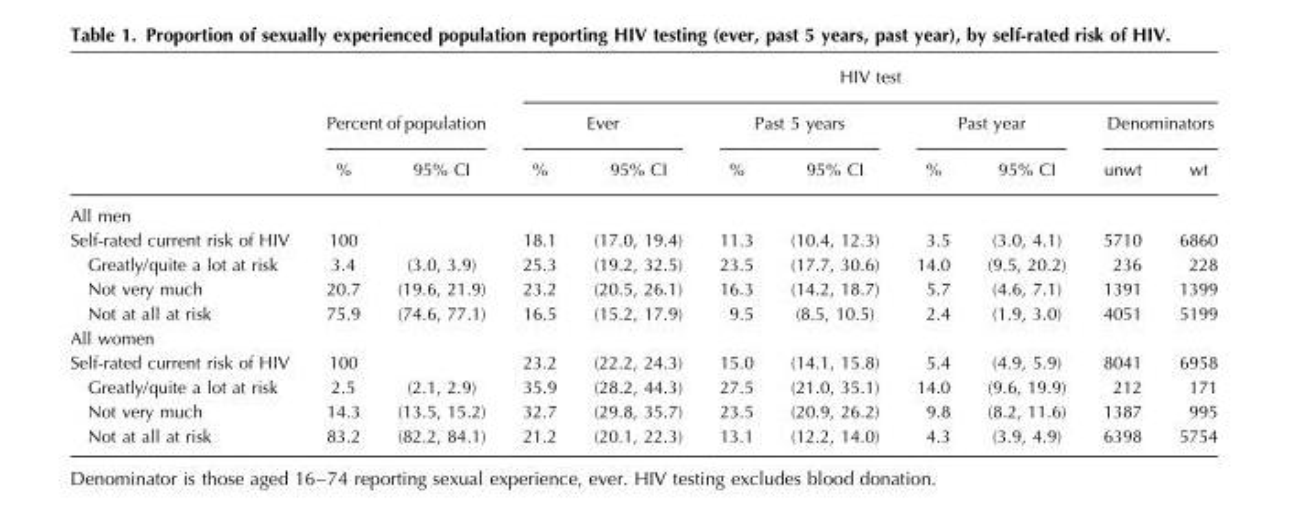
<table><thead><tr><td rowspan="3"></td><td></td><td></td><td colspan="8">HIV test</td></tr><tr><td colspan="2">Percent of population</td><td colspan="2">Ever</td><td colspan="2">Past 5 years</td><td colspan="2">Past year</td><td colspan="2">Denominators</td></tr><tr><td>%</td><td>95% CI</td><td>%</td><td>95% CI</td><td>%</td><td>95% CI</td><td>%</td><td>95% CI</td><td>unwt</td><td>wt</td></tr></thead><tbody><tr><td colspan="11">All men</td></tr><tr><td>Self-rated current risk of HIV</td><td>100</td><td></td><td>18.1</td><td>(17.0, 19.4)</td><td>11.3</td><td>(10.4, 12.3)</td><td>3.5</td><td>(3.0, 4.1)</td><td>5710</td><td>6860</td></tr><tr><td>Greatly/quite a lot at risk</td><td>3.4</td><td>(3.0, 3.9)</td><td>25.3</td><td>(19.2, 32.5)</td><td>23.5</td><td>(17.7, 30.6)</td><td>14.0</td><td>(9.5, 20.2)</td><td>236</td><td>228</td></tr><tr><td>Not very much</td><td>20.7</td><td>(19.6, 21.9)</td><td>23.2</td><td>(20.5, 26.1)</td><td>16.3</td><td>(14.2, 18.7)</td><td>5.7</td><td>(4.6, 7.1)</td><td>1391</td><td>1399</td></tr><tr><td>Not at all at risk</td><td>75.9</td><td>(74.6, 77.1)</td><td>16.5</td><td>(15.2, 17.9)</td><td>9.5</td><td>(8.5, 10.5)</td><td>2.4</td><td>(1.9, 3.0)</td><td>4051</td><td>5199</td></tr><tr><td colspan="11">All women</td></tr><tr><td>Self-rated current risk of HIV</td><td>100</td><td></td><td>23.2</td><td>(22.2, 24.3)</td><td>15.0</td><td>(14.1, 15.8)</td><td>5.4</td><td>(4.9, 5.9)</td><td>8041</td><td>6958</td></tr><tr><td>Greatly/quite a lot at risk</td><td>2.5</td><td>(2.1, 2.9)</td><td>35.9</td><td>(28.2, 44.3)</td><td>27.5</td><td>(21.0, 35.1)</td><td>14.0</td><td>(9.6, 19.9)</td><td>212</td><td>171</td></tr><tr><td>Not very much</td><td>14.3</td><td>(13.5, 15.2)</td><td>32.7</td><td>(29.8, 35.7)</td><td>23.5</td><td>(20.9, 26.2)</td><td>9.8</td><td>(8.2, 11.6)</td><td>1387</td><td>995</td></tr><tr><td>Not at all at risk</td><td>83.2</td><td>(82.2, 84.1)</td><td>21.2</td><td>(20.1, 22.3)</td><td>13.1</td><td>(12.2, 14.0)</td><td>4.3</td><td>(3.9, 4.9)</td><td>6398</td><td>5754</td></tr></tbody></table>